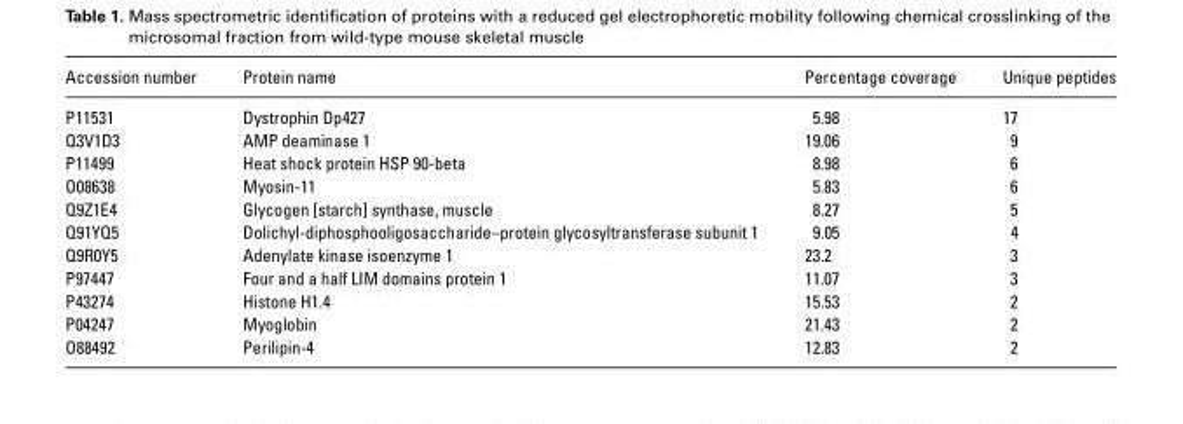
<table><thead><tr><td>Accession number</td><td>Protein name</td><td>Percentage coverage</td><td>Unique peptides</td></tr></thead><tbody><tr><td>P11531</td><td>Dystrophin Dp427</td><td>5.98</td><td>17</td></tr><tr><td>Q3V1D3</td><td>AMP deaminase 1</td><td>19.06</td><td>9</td></tr><tr><td>P11499</td><td>Heat shock protein HSP 90-beta</td><td>8.98</td><td>6</td></tr><tr><td>O08638</td><td>Myosin-11</td><td>5.83</td><td>6</td></tr><tr><td>Q9Z1E4</td><td>Glycogen [starch] synthase, muscle</td><td>8.27</td><td>5</td></tr><tr><td>Q91YQ5</td><td>Dolichyl-diphosphooligosaccharide–protein glycosyltransferase subunit 1</td><td>9.05</td><td>4</td></tr><tr><td>Q9R0Y5</td><td>Adenylate kinase isoenzyme 1</td><td>23.2</td><td>3</td></tr><tr><td>P97447</td><td>Four and a half LIM domains protein 1</td><td>11.07</td><td>3</td></tr><tr><td>P43274</td><td>Histone H1.4</td><td>15.53</td><td>2</td></tr><tr><td>P04247</td><td>Myoglobin</td><td>21.43</td><td>2</td></tr><tr><td>O88492</td><td>Perilipin-4</td><td>12.83</td><td>2</td></tr></tbody></table>